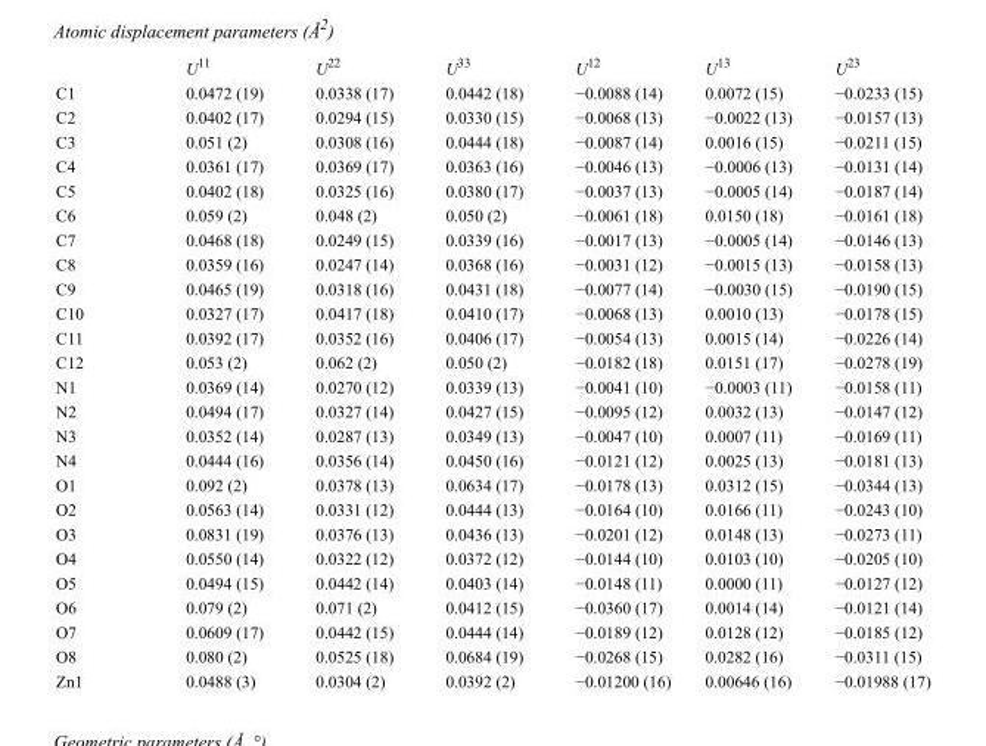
<table><thead><tr><td></td><td>U<sup>11</sup></td><td>U<sup>22</sup></td><td>U<sup>33</sup></td><td>U<sup>12</sup></td><td>U<sup>13</sup></td><td>U<sup>23</sup></td></tr></thead><tbody><tr><td>C1</td><td>0.0472 (19)</td><td>0.0338 (17)</td><td>0.0442 (18)</td><td>−0.0088 (14)</td><td>0.0072 (15)</td><td>−0.0233 (15)</td></tr><tr><td>C2</td><td>0.0402 (17)</td><td>0.0294 (15)</td><td>0.0330 (15)</td><td>−0.0068 (13)</td><td>−0.0022 (13)</td><td>−0.0157 (13)</td></tr><tr><td>C3</td><td>0.051 (2)</td><td>0.0308 (16)</td><td>0.0444 (18)</td><td>−0.0087 (14)</td><td>0.0016 (15)</td><td>−0.0211 (15)</td></tr><tr><td>C4</td><td>0.0361 (17)</td><td>0.0369 (17)</td><td>0.0363 (16)</td><td>−0.0046 (13)</td><td>−0.0006 (13)</td><td>−0.0131 (14)</td></tr><tr><td>C5</td><td>0.0402 (18)</td><td>0.0325 (16)</td><td>0.0380 (17)</td><td>−0.0037 (13)</td><td>−0.0005 (14)</td><td>−0.0187 (14)</td></tr><tr><td>C6</td><td>0.059 (2)</td><td>0.048 (2)</td><td>0.050 (2)</td><td>−0.0061 (18)</td><td>0.0150 (18)</td><td>−0.0161 (18)</td></tr><tr><td>C7</td><td>0.0468 (18)</td><td>0.0249 (15)</td><td>0.0339 (16)</td><td>−0.0017 (13)</td><td>−0.0005 (14)</td><td>−0.0146 (13)</td></tr><tr><td>C8</td><td>0.0359 (16)</td><td>0.0247 (14)</td><td>0.0368 (16)</td><td>−0.0031 (12)</td><td>−0.0015 (13)</td><td>−0.0158 (13)</td></tr><tr><td>C9</td><td>0.0465 (19)</td><td>0.0318 (16)</td><td>0.0431 (18)</td><td>−0.0077 (14)</td><td>−0.0030 (15)</td><td>−0.0190 (15)</td></tr><tr><td>C10</td><td>0.0327 (17)</td><td>0.0417 (18)</td><td>0.0410 (17)</td><td>−0.0068 (13)</td><td>0.0010 (13)</td><td>−0.0178 (15)</td></tr><tr><td>C11</td><td>0.0392 (17)</td><td>0.0352 (16)</td><td>0.0406 (17)</td><td>−0.0054 (13)</td><td>0.0015 (14)</td><td>−0.0226 (14)</td></tr><tr><td>C12</td><td>0.053 (2)</td><td>0.062 (2)</td><td>0.050 (2)</td><td>−0.0182 (18)</td><td>0.0151 (17)</td><td>−0.0278 (19)</td></tr><tr><td>N1</td><td>0.0369 (14)</td><td>0.0270 (12)</td><td>0.0339 (13)</td><td>−0.0041 (10)</td><td>−0.0003 (11)</td><td>−0.0158 (11)</td></tr><tr><td>N2</td><td>0.0494 (17)</td><td>0.0327 (14)</td><td>0.0427 (15)</td><td>−0.0095 (12)</td><td>0.0032 (13)</td><td>−0.0147 (12)</td></tr><tr><td>N3</td><td>0.0352 (14)</td><td>0.0287 (13)</td><td>0.0349 (13)</td><td>−0.0047 (10)</td><td>0.0007 (11)</td><td>−0.0169 (11)</td></tr><tr><td>N4</td><td>0.0444 (16)</td><td>0.0356 (14)</td><td>0.0450 (16)</td><td>−0.0121 (12)</td><td>0.0025 (13)</td><td>−0.0181 (13)</td></tr><tr><td>O1</td><td>0.092 (2)</td><td>0.0378 (13)</td><td>0.0634 (17)</td><td>−0.0178 (13)</td><td>0.0312 (15)</td><td>−0.0344 (13)</td></tr><tr><td>O2</td><td>0.0563 (14)</td><td>0.0331 (12)</td><td>0.0444 (13)</td><td>−0.0164 (10)</td><td>0.0166 (11)</td><td>−0.0243 (10)</td></tr><tr><td>O3</td><td>0.0831 (19)</td><td>0.0376 (13)</td><td>0.0436 (13)</td><td>−0.0201 (12)</td><td>0.0148 (13)</td><td>−0.0273 (11)</td></tr><tr><td>O4</td><td>0.0550 (14)</td><td>0.0322 (12)</td><td>0.0372 (12)</td><td>−0.0144 (10)</td><td>0.0103 (10)</td><td>−0.0205 (10)</td></tr><tr><td>O5</td><td>0.0494 (15)</td><td>0.0442 (14)</td><td>0.0403 (14)</td><td>−0.0148 (11)</td><td>0.0000 (11)</td><td>−0.0127 (12)</td></tr><tr><td>O6</td><td>0.079 (2)</td><td>0.071 (2)</td><td>0.0412 (15)</td><td>−0.0360 (17)</td><td>0.0014 (14)</td><td>−0.0121 (14)</td></tr><tr><td>O7</td><td>0.0609 (17)</td><td>0.0442 (15)</td><td>0.0444 (14)</td><td>−0.0189 (12)</td><td>0.0128 (12)</td><td>−0.0185 (12)</td></tr><tr><td>O8</td><td>0.080 (2)</td><td>0.0525 (18)</td><td>0.0684 (19)</td><td>−0.0268 (15)</td><td>0.0282 (16)</td><td>−0.0311 (15)</td></tr><tr><td>Zn1</td><td>0.0488 (3)</td><td>0.0304 (2)</td><td>0.0392 (2)</td><td>−0.01200 (16)</td><td>0.00646 (16)</td><td>−0.01988 (17)</td></tr></tbody></table>